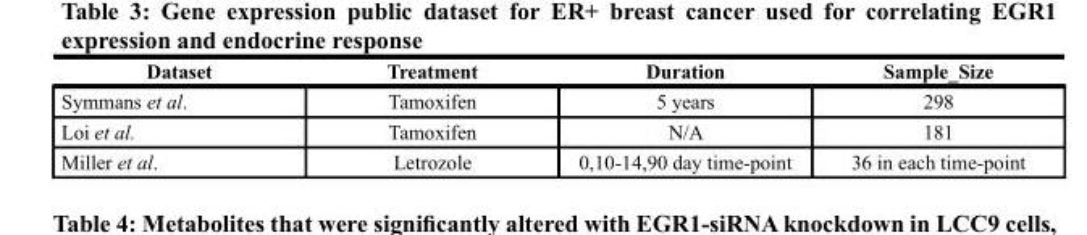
<table><thead><tr><td>Dataset</td><td>Treatment</td><td>Duration</td><td>Sample_Size</td></tr></thead><tbody><tr><td>Symmans et al.</td><td>Tamoxifen</td><td>5 years</td><td>298</td></tr><tr><td>Loi et al.</td><td>Tamoxifen</td><td>N/A</td><td>181</td></tr><tr><td>Miller et al.</td><td>Letrozole</td><td>0,10-14,90 day time-point</td><td>36 in each time-point</td></tr></tbody></table>